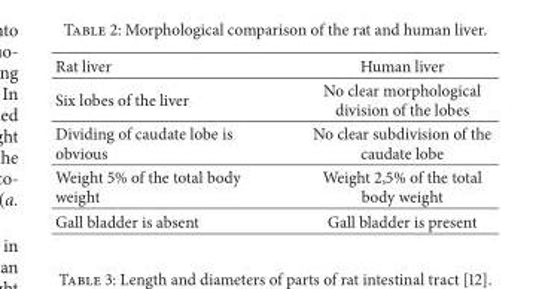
<table><thead><tr><td>Rat liver</td><td>Human liver</td></tr></thead><tbody><tr><td>Six lobes of the liver</td><td>No clear morphological division of the lobes</td></tr><tr><td>Dividing of caudate lobe is obvious</td><td>No clear subdivision of the caudate lobe</td></tr><tr><td>Weight 5% of the total body weight</td><td>Weight 2,5% of the total body weight</td></tr><tr><td>Gall bladder is absent</td><td>Gall bladder is present</td></tr></tbody></table>